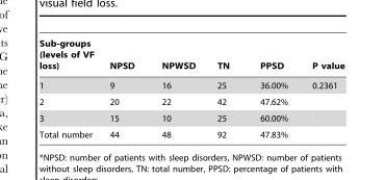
<table><thead><tr><td>Sub-groups (levels of VF loss)</td><td>NPSD</td><td>NPWSD</td><td>TN</td><td>PPSD</td><td>P value</td></tr></thead><tbody><tr><td>1</td><td>9</td><td>16</td><td>25</td><td>36.00%</td><td>0.2361</td></tr><tr><td>2</td><td>20</td><td>22</td><td>42</td><td>47.62%</td><td></td></tr><tr><td>3</td><td>15</td><td>10</td><td>25</td><td>60.00%</td><td></td></tr><tr><td>Total number</td><td>44</td><td>48</td><td>92</td><td>47.83%</td><td></td></tr></tbody></table>